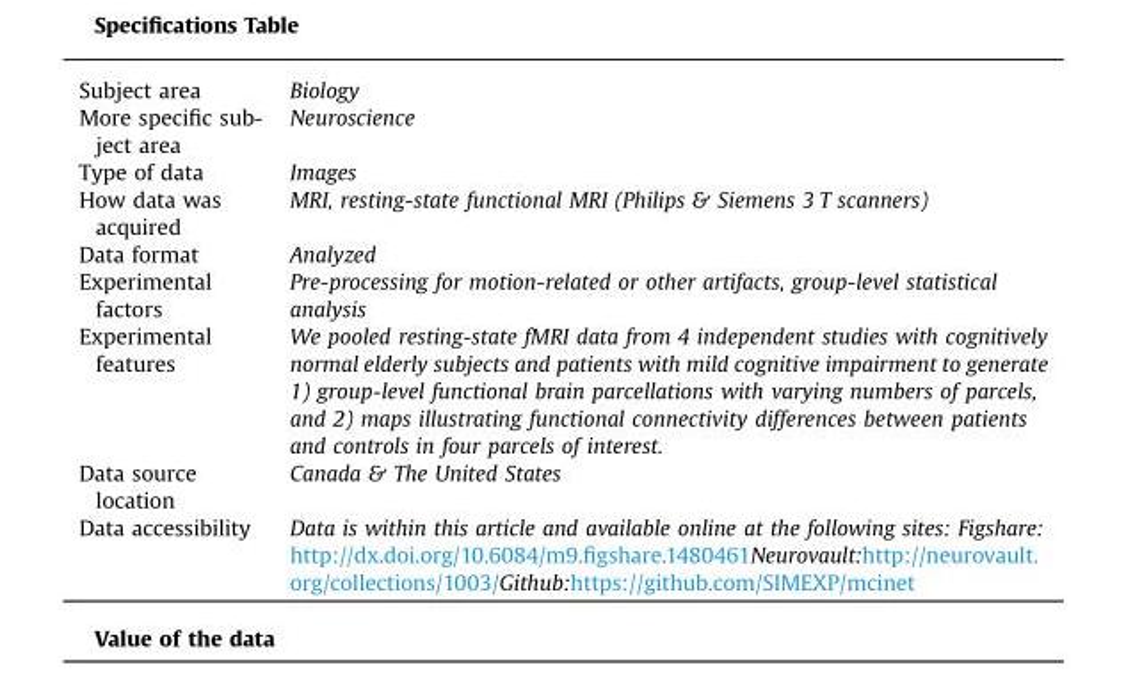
<table><tbody><tr><td>Subject area</td><td>Biology</td></tr><tr><td>More specific sub- ject area</td><td>Neuroscience</td></tr><tr><td>Type of data</td><td>Images</td></tr><tr><td>How data was acquired</td><td>MRI, resting-state functional MRI (Philips &amp; Siemens 3 T scanners)</td></tr><tr><td>Data format</td><td>Analyzed</td></tr><tr><td>Experimental factors</td><td>Pre-processing for motion-related or other artifacts, group-level statistical analysis</td></tr><tr><td>Experimental features</td><td>We pooled resting-state fMRI data from 4 independent studies with cognitively normal elderly subjects and patients with mild cognitive impairment to generate 1) group-level functional brain parcellations with varying numbers of parcels, and 2) maps illustrating functional connectivity differences between patients and controls in four parcels of interest.</td></tr><tr><td>Data source location</td><td>Canada &amp; The United States</td></tr><tr><td>Data accessibility</td><td>Data is within this article and available online at the following sites: Figshare: http://dx.doi.org/10.6084/m9.figshare.1480461Neurovault:http://neurovault. org/collections/1003/Github:https://github.com/SIMEXP/mcinet</td></tr></tbody></table>